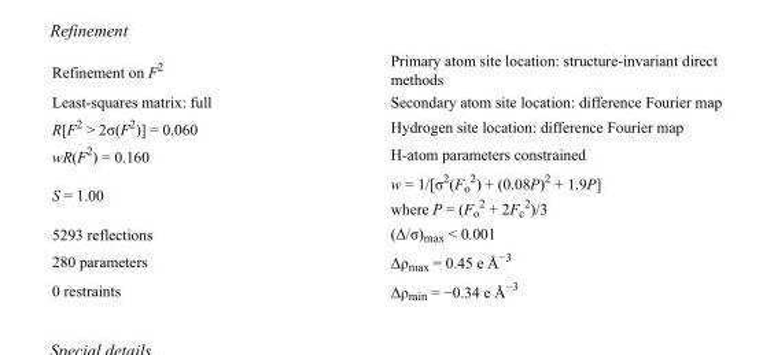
<table><tbody><tr><td>Refinement on F<sup>2</sup></td><td>Primary atom site location: structure-invariant direct methods</td></tr><tr><td>Least-squares matrix: full</td><td>Secondary atom site location: difference Fourier map</td></tr><tr><td>R[F<sup>2</sup> &gt; 2σ(F<sup>2</sup>)] = 0.060</td><td>Hydrogen site location: difference Fourier map</td></tr><tr><td>wR(F<sup>2</sup>) = 0.160</td><td>H-atom parameters constrained</td></tr><tr><td>S = 1.00</td><td>w = 1/[σ<sup>2</sup>(F<sub>o</sub> <sup>2</sup>) + (0.08P)<sup>2</sup> + 1.9P] where P = (F<sub>o</sub> <sup>2</sup> + 2F<sub>c</sub> <sup>2</sup>)/3</td></tr><tr><td>5293 reflections</td><td>(Δ/σ)<sub>max</sub> &lt; 0.001</td></tr><tr><td>280 parameters</td><td>Δρ<sub>max</sub> = 0.45 e Å<sup>−3</sup></td></tr><tr><td>0 restraints</td><td>Δρ<sub>min</sub> = −0.34 e Å<sup>−3</sup></td></tr></tbody></table>